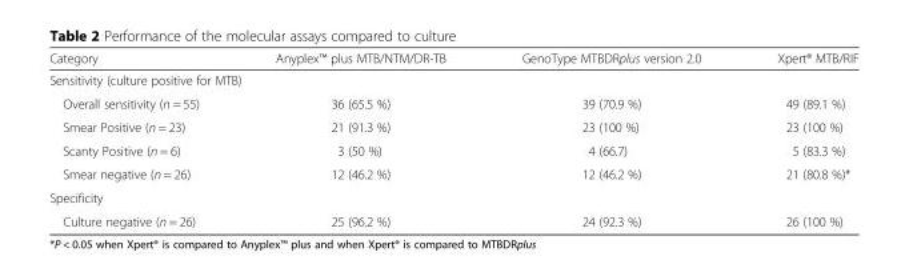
<table><thead><tr><td>Category</td><td>Anyplex™ plus MTB/NTM/DR-TB</td><td>GenoType MTBDRplus version 2.0</td><td>Xpert® MTB/RIF</td></tr></thead><tbody><tr><td colspan="4">Sensitivity (culture positive for MTB)</td></tr><tr><td>Overall sensitivity (n = 55)</td><td>36 (65.5 %)</td><td>39 (70.9 %)</td><td>49 (89.1 %)</td></tr><tr><td>Smear Positive (n = 23)</td><td>21 (91.3 %)</td><td>23 (100 %)</td><td>23 (100 %)</td></tr><tr><td>Scanty Positive (n = 6)</td><td>3 (50 %)</td><td>4 (66.7)</td><td>5 (83.3 %)</td></tr><tr><td>Smear negative (n = 26)</td><td>12 (46.2 %)</td><td>12 (46.2 %)</td><td>21 (80.8 %)*</td></tr><tr><td colspan="4">Specificity</td></tr><tr><td>Culture negative (n = 26)</td><td>25 (96.2 %)</td><td>24 (92.3 %)</td><td>26 (100 %)</td></tr></tbody></table>